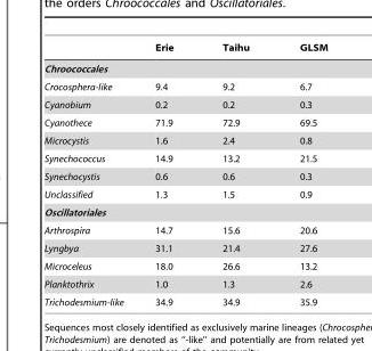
<table><thead><tr><td></td><td>Erie</td><td>Taihu</td><td>GLSM</td></tr></thead><tbody><tr><td colspan="4">Chroococcales</td></tr><tr><td>Crocosphera-like</td><td>9.4</td><td>9.2</td><td>6.7</td></tr><tr><td>Cyanobium</td><td>0.2</td><td>0.2</td><td>0.3</td></tr><tr><td>Cyanothece</td><td>71.9</td><td>72.9</td><td>69.5</td></tr><tr><td>Microcystis</td><td>1.6</td><td>2.4</td><td>0.8</td></tr><tr><td>Synechococcus</td><td>14.9</td><td>13.2</td><td>21.5</td></tr><tr><td>Synechocystis</td><td>0.6</td><td>0.6</td><td>0.3</td></tr><tr><td>Unclassified</td><td>1.3</td><td>1.5</td><td>0.9</td></tr><tr><td colspan="4">Oscillatoriales</td></tr><tr><td>Arthrospira</td><td>14.7</td><td>15.6</td><td>20.6</td></tr><tr><td>Lyngbya</td><td>31.1</td><td>21.4</td><td>27.6</td></tr><tr><td>Microceleus</td><td>18.0</td><td>26.6</td><td>13.2</td></tr><tr><td>Planktothrix</td><td>1.0</td><td>1.3</td><td>2.6</td></tr><tr><td>Trichodesmium-like</td><td>34.9</td><td>34.9</td><td>35.9</td></tr></tbody></table>